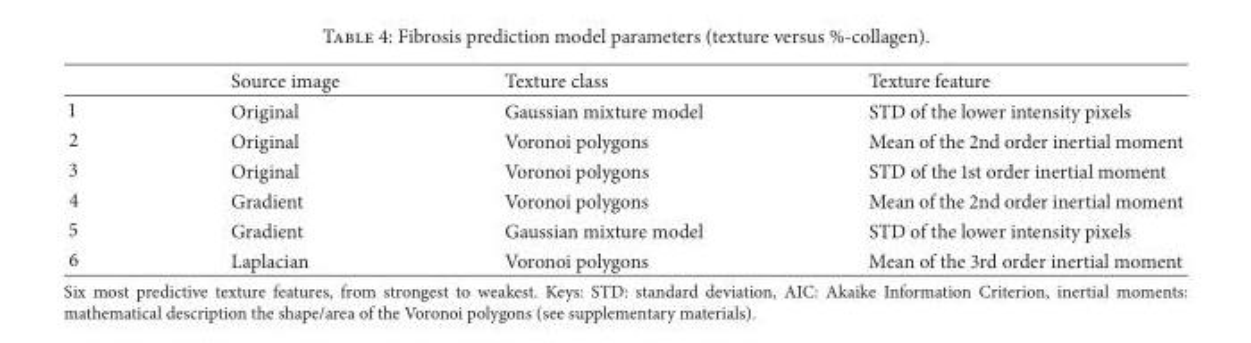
<table><thead><tr><td></td><td>Source image</td><td>Texture class</td><td>Texture feature</td></tr></thead><tbody><tr><td>1</td><td>Original</td><td>Gaussian mixture model</td><td>STD of the lower intensity pixels</td></tr><tr><td>2</td><td>Original</td><td>Voronoi polygons</td><td>Mean of the 2nd order inertial moment</td></tr><tr><td>3</td><td>Original</td><td>Voronoi polygons</td><td>STD of the 1st order inertial moment</td></tr><tr><td>4</td><td>Gradient</td><td>Voronoi polygons</td><td>Mean of the 2nd order inertial moment</td></tr><tr><td>5</td><td>Gradient</td><td>Gaussian mixture model</td><td>STD of the lower intensity pixels</td></tr><tr><td>6</td><td>Laplacian</td><td>Voronoi polygons</td><td>Mean of the 3rd order inertial moment</td></tr></tbody></table>